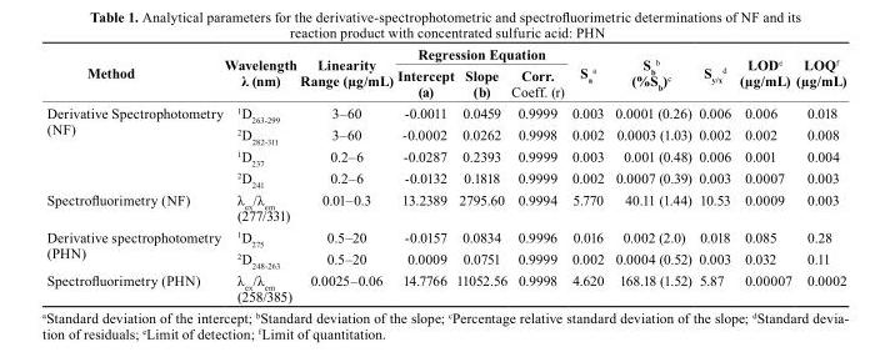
<table><thead><tr><td rowspan="2">Method</td><td rowspan="2">Wavelength λ (nm)</td><td rowspan="2">Linearity Range (µg/mL)</td><td colspan="3">Regression Equation</td><td rowspan="2">s<sub>a</sub> a</td><td rowspan="2">s<sub>b</sub> b (%S<sub>b</sub>)<sup>c</sup></td><td rowspan="2">s<sub>y/x</sub> d</td><td rowspan="2">LOD<sup>e</sup> (µg/mL)</td><td rowspan="2">LOQ<sup>f</sup> (µg/mL)</td></tr><tr><td>Intercept (a)</td><td>slope (b)</td><td>Corr. Coeff. (r)</td></tr></thead><tbody><tr><td rowspan="4">Derivative Spectrophotometry (NF)</td><td><sup>1</sup>D<sub>263-299</sub></td><td>3–60</td><td>-0.0011</td><td>0.0459</td><td>0.9999</td><td>0.003</td><td>0.0001 (0.26)</td><td>0.006</td><td>0.006</td><td>0.018</td></tr><tr><td><sup>2</sup>D<sub>282-311</sub></td><td>3–60</td><td>-0.0002</td><td>0.0262</td><td>0.9998</td><td>0.002</td><td>0.0003 (1.03)</td><td>0.002</td><td>0.002</td><td>0.008</td></tr><tr><td><sup>1</sup>D<sub>237</sub></td><td>0.2–6</td><td>-0.0287</td><td>0.2393</td><td>0.9999</td><td>0.003</td><td>0.001 (0.48)</td><td>0.006</td><td>0.001</td><td>0.004</td></tr><tr><td><sup>2</sup>D<sub>241</sub></td><td>0.2–6</td><td>-0.0132</td><td>0.1818</td><td>0.9999</td><td>0.002</td><td>0.0007 (0.39)</td><td>0.003</td><td>0.0007</td><td>0.003</td></tr><tr><td>Spectrofluorimetry (NF)</td><td>λ<sub>ex</sub>/λ<sub>em</sub> (277/331)</td><td>0.01–0.3</td><td>13.2389</td><td>2795.60</td><td>0.9994</td><td>5.770</td><td>40.11 (1.44)</td><td>10.53</td><td>0.0009</td><td>0.003</td></tr><tr><td rowspan="2">Derivative spectrophotometry (PHN)</td><td><sup>1</sup>D<sub>275</sub></td><td>0.5–20</td><td>-0.0157</td><td>0.0834</td><td>0.9996</td><td>0.016</td><td>0.002 (2.0)</td><td>0.018</td><td>0.085</td><td>0.28</td></tr><tr><td><sup>2</sup>D<sub>248-263</sub></td><td>0.5–20</td><td>0.0009</td><td>0.0751</td><td>0.9999</td><td>0.002</td><td>0.0004 (0.52)</td><td>0.003</td><td>0.032</td><td>0.11</td></tr><tr><td>Spectrofluorimetry (PHN)</td><td>λ<sub>ex</sub>/λ<sub>em</sub> (258/385)</td><td>0.0025–0.06</td><td>14.7766</td><td>11052.56</td><td>0.9998</td><td>4.620</td><td>168.18 (1.52)</td><td>5.87</td><td>0.00007</td><td>0.0002</td></tr></tbody></table>